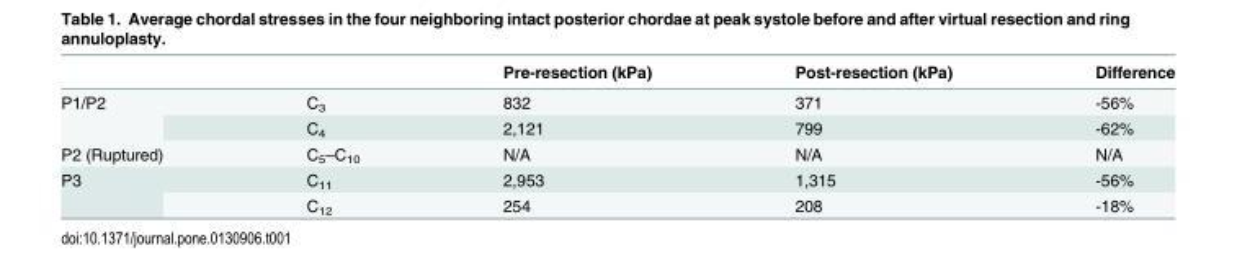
<table><thead><tr><td></td><td></td><td>Pre-resection (kPa)</td><td>Post-resection (kPa)</td><td>Difference</td></tr></thead><tbody><tr><td rowspan="2">P1/P2</td><td>C<sub>3</sub></td><td>832</td><td>371</td><td>-56%</td></tr><tr><td>C<sub>4</sub></td><td>2,121</td><td>799</td><td>-62%</td></tr><tr><td>P2 (Ruptured)</td><td>C<sub>5</sub>–C<sub>10</sub></td><td>N/A</td><td>N/A</td><td>N/A</td></tr><tr><td rowspan="2">P3</td><td>C<sub>11</sub></td><td>2,953</td><td>1,315</td><td>-56%</td></tr><tr><td>C<sub>12</sub></td><td>254</td><td>208</td><td>-18%</td></tr></tbody></table>